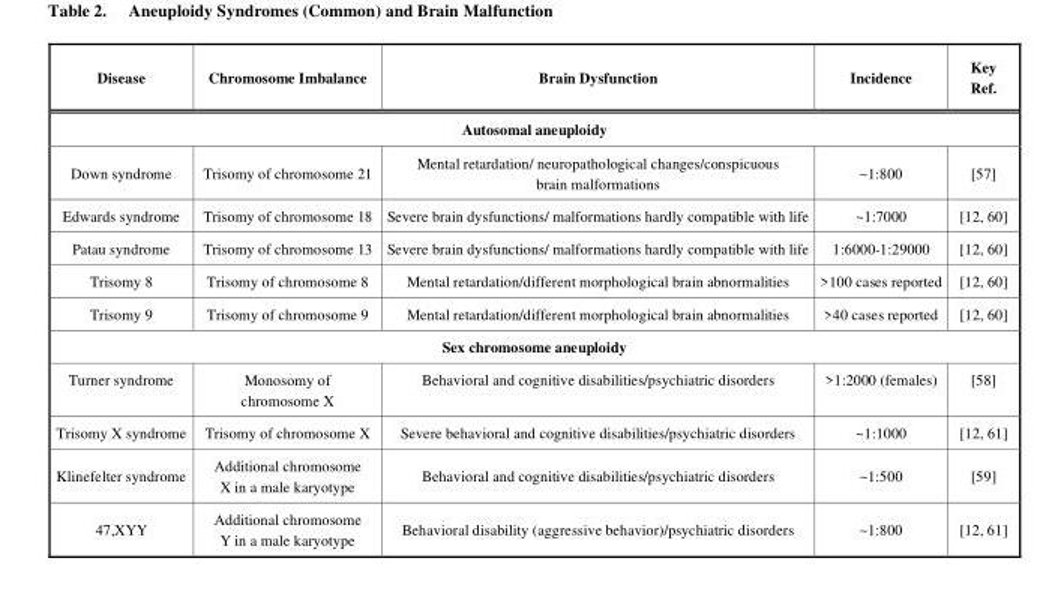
<table><thead><tr><td>Disease</td><td>Chromosome Imbalance</td><td>Brain Dysfunction</td><td>Incidence</td><td>Key Ref.</td></tr></thead><tbody><tr><td colspan="5">Autosomal aneuploidy</td></tr><tr><td>Down syndrome</td><td>Trisomy of chromosome 21</td><td>Mental retardation/ neuropathological changes/conspicuous brain malformations</td><td>~1:800</td><td>[57]</td></tr><tr><td>Edwards syndrome</td><td>Trisomy of chromosome 18</td><td>Severe brain dysfunctions/ malformations hardly compatible with life</td><td>~1:7000</td><td>[12, 60]</td></tr><tr><td>Patau syndrome</td><td>Trisomy of chromosome 13</td><td>Severe brain dysfunctions/ malformations hardly compatible with life</td><td>1:6000-1:29000</td><td>[12, 60]</td></tr><tr><td>Trisomy 8</td><td>Trisomy of chromosome 8</td><td>Mental retardation/different morphological brain abnormalities</td><td>&gt;100 cases reported</td><td>[12, 60]</td></tr><tr><td>Trisomy 9</td><td>Trisomy of chromosome 9</td><td>Mental retardation/different morphological brain abnormalities</td><td>&gt;40 cases reported</td><td>[12, 60]</td></tr><tr><td colspan="5">Sex chromosome aneuploidy</td></tr><tr><td>Turner syndrome</td><td>Monosomy of chromosome X</td><td>Behavioral and cognitive disabilities/psychiatric disorders</td><td>&gt;1:2000 (females)</td><td>[58]</td></tr><tr><td>Trisomy X syndrome</td><td>Trisomy of chromosome X</td><td>Severe behavioral and cognitive disabilities/psychiatric disorders</td><td>~1:1000</td><td>[12, 61]</td></tr><tr><td>Klinefelter syndrome</td><td>Additional chromosome X in a male karyotype</td><td>Behavioral and cognitive disabilities/psychiatric disorders</td><td>~1:500</td><td>[59]</td></tr><tr><td>47,XYY</td><td>Additional chromosome Y in a male karyotype</td><td>Behavioral disability (aggressive behavior)/psychiatric disorders</td><td>~1:800</td><td>[12, 61]</td></tr></tbody></table>